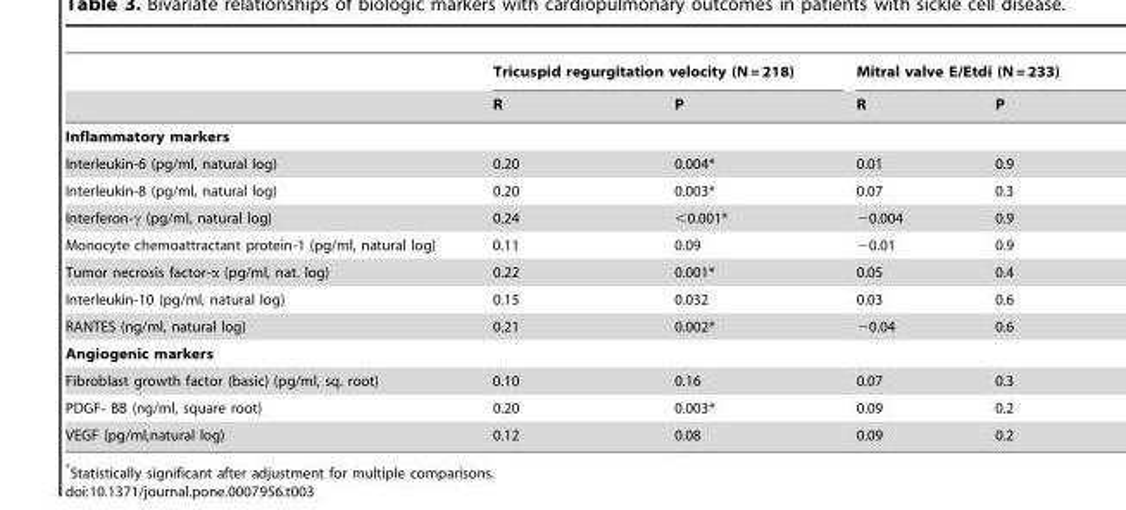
<table><thead><tr><td rowspan="2"></td><td colspan="2">Tricuspid regurgitation velocity (N = 218)</td><td colspan="2">Mitral valve E/Etdi (N = 233)</td></tr><tr><td>R</td><td>P</td><td>R</td><td>P</td></tr></thead><tbody><tr><td colspan="5">Inflammatory markers</td></tr><tr><td>Interleukin-6 (pg/ml, natural log)</td><td>0.20</td><td>0.004*</td><td>0.01</td><td>0.9</td></tr><tr><td>Interleukin-8 (pg/ml, natural log)</td><td>0.20</td><td>0.003*</td><td>0.07</td><td>0.3</td></tr><tr><td>Interferon-γ (pg/ml, natural log)</td><td>0.24</td><td>&lt;0.001*</td><td>−0.004</td><td>0.9</td></tr><tr><td>Monocyte chemoattractant protein-1 (pg/ml, natural log)</td><td>0.11</td><td>0.09</td><td>−0.01</td><td>0.9</td></tr><tr><td>Tumor necrosis factor-α (pg/ml, nat. log)</td><td>0.22</td><td>0.001*</td><td>0.05</td><td>0.4</td></tr><tr><td>Interleukin-10 (pg/ml, natural log)</td><td>0.15</td><td>0.032</td><td>0.03</td><td>0.6</td></tr><tr><td>RANTES (ng/ml, natural log)</td><td>0.21</td><td>0.002*</td><td>−0.04</td><td>0.6</td></tr><tr><td colspan="5">Angiogenic markers</td></tr><tr><td>Fibroblast growth factor (basic) (pg/ml, sq. root)</td><td>0.10</td><td>0.16</td><td>0.07</td><td>0.3</td></tr><tr><td>PDGF- BB (ng/ml, square root)</td><td>0.20</td><td>0.003*</td><td>0.09</td><td>0.2</td></tr><tr><td>VEGF (pg/ml,natural log)</td><td>0.12</td><td>0.08</td><td>0.09</td><td>0.2</td></tr></tbody></table>